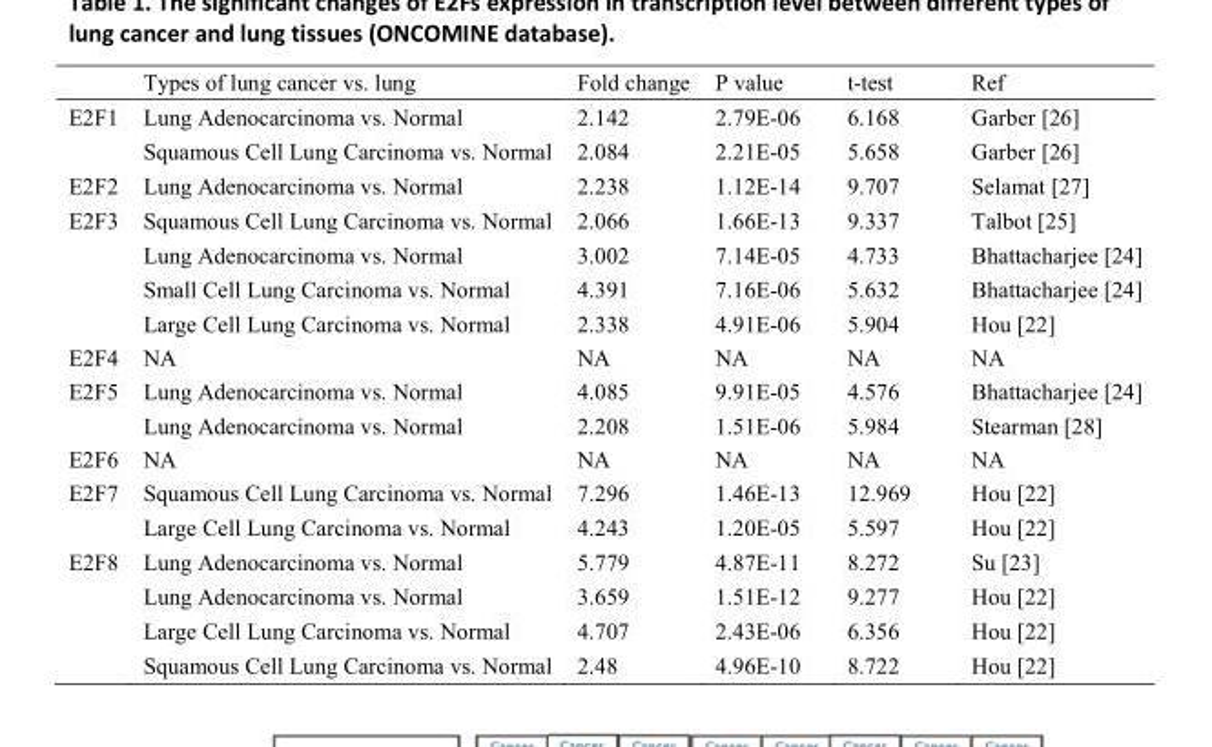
<table><thead><tr><td></td><td>Types of lung cancer vs. lung</td><td>Fold change</td><td>P value</td><td>t-test</td><td>Ref</td></tr></thead><tbody><tr><td rowspan="2">E2F1</td><td>Lung Adenocarcinoma vs. Normal</td><td>2.142</td><td>2.79E-06</td><td>6.168</td><td>Garber [26]</td></tr><tr><td>Squamous Cell Lung Carcinoma vs. Normal</td><td>2.084</td><td>2.21E-05</td><td>5.658</td><td>Garber [26]</td></tr><tr><td>E2F2</td><td>Lung Adenocarcinoma vs. Normal</td><td>2.238</td><td>1.12E-14</td><td>9.707</td><td>Selamat [27]</td></tr><tr><td rowspan="4">E2F3</td><td>Squamous Cell Lung Carcinoma vs. Normal</td><td>2.066</td><td>1.66E-13</td><td>9.337</td><td>Talbot [25]</td></tr><tr><td>Lung Adenocarcinoma vs. Normal</td><td>3.002</td><td>7.14E-05</td><td>4.733</td><td>Bhattacharjee [24]</td></tr><tr><td>Small Cell Lung Carcinoma vs. Normal</td><td>4.391</td><td>7.16E-06</td><td>5.632</td><td>Bhattacharjee [24]</td></tr><tr><td>Large Cell Lung Carcinoma vs. Normal</td><td>2.338</td><td>4.91E-06</td><td>5.904</td><td>Hou [22]</td></tr><tr><td>E2F4</td><td>NA</td><td>NA</td><td>NA</td><td>NA</td><td>NA</td></tr><tr><td rowspan="2">E2F5</td><td>Lung Adenocarcinoma vs. Normal</td><td>4.085</td><td>9.91E-05</td><td>4.576</td><td>Bhattacharjee [24]</td></tr><tr><td>Lung Adenocarcinoma vs. Normal</td><td>2.208</td><td>1.51E-06</td><td>5.984</td><td>Stearman [28]</td></tr><tr><td>E2F6</td><td>NA</td><td>NA</td><td>NA</td><td>NA</td><td>NA</td></tr><tr><td rowspan="2">E2F7</td><td>Squamous Cell Lung Carcinoma vs. Normal</td><td>7.296</td><td>1.46E-13</td><td>12.969</td><td>Hou [22]</td></tr><tr><td>Large Cell Lung Carcinoma vs. Normal</td><td>4.243</td><td>1.20E-05</td><td>5.597</td><td>Hou [22]</td></tr><tr><td rowspan="4">E2F8</td><td>Lung Adenocarcinoma vs. Normal</td><td>5.779</td><td>4.87E-11</td><td>8.272</td><td>Su [23]</td></tr><tr><td>Lung Adenocarcinoma vs. Normal</td><td>3.659</td><td>1.51E-12</td><td>9.277</td><td>Hou [22]</td></tr><tr><td>Large Cell Lung Carcinoma vs. Normal</td><td>4.707</td><td>2.43E-06</td><td>6.356</td><td>Hou [22]</td></tr><tr><td>Squamous Cell Lung Carcinoma vs. Normal</td><td>2.48</td><td>4.96E-10</td><td>8.722</td><td>Hou [22]</td></tr></tbody></table>